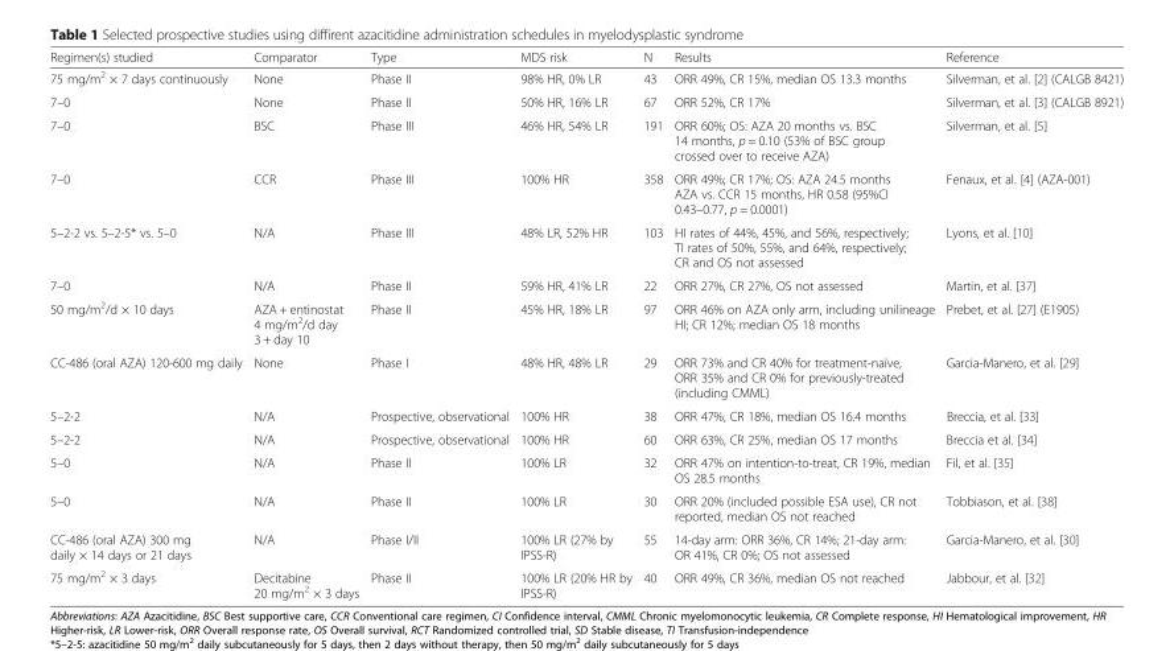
<table><thead><tr><td>Regimen(s) studied</td><td>Comparator</td><td>Type</td><td>MDS risk</td><td>N</td><td>Results</td><td>Reference</td></tr></thead><tbody><tr><td>75 mg/m<sup>2</sup> × 7 days continuously</td><td>None</td><td>Phase II</td><td>98% HR, 0% LR</td><td>43</td><td>ORR 49%, CR 15%, median OS 13.3 months</td><td>Silverman, et al. [2] (CALGB 8421)</td></tr><tr><td>7–0</td><td>None</td><td>Phase II</td><td>50% HR, 16% LR</td><td>67</td><td>ORR 52%, CR 17%</td><td>Silverman, et al. [3] (CALGB 8921)</td></tr><tr><td>7–0</td><td>BSC</td><td>Phase III</td><td>46% HR, 54% LR</td><td>191</td><td>ORR 60%; OS: AZA 20 months vs. BSC 14 months, p = 0.10 (53% of BSC group crossed over to receive AZA)</td><td>Silverman, et al. [5]</td></tr><tr><td>7–0</td><td>CCR</td><td>Phase III</td><td>100% HR</td><td>358</td><td>ORR 49%; CR 17%; OS: AZA 24.5 months AZA vs. CCR 15 months, HR 0.58 (95%CI 0.43–0.77, p = 0.0001)</td><td>Fenaux, et al. [4] (AZA-001)</td></tr><tr><td>5–2-2 vs. 5–2-5* vs. 5–0</td><td>N/A</td><td>Phase III</td><td>48% LR, 52% HR</td><td>103</td><td>HI rates of 44%, 45%, and 56%, respectively; TI rates of 50%, 55%, and 64%, respectively; CR and OS not assessed</td><td>Lyons, et al. [10]</td></tr><tr><td>7–0</td><td>N/A</td><td>Phase II</td><td>59% HR, 41% LR</td><td>22</td><td>ORR 27%, CR 27%, OS not assessed</td><td>Martin, et al. [37]</td></tr><tr><td>50 mg/m<sup>2</sup>/d × 10 days</td><td>AZA + entinostat 4 mg/m<sup>2</sup>/d day 3 + day 10</td><td>Phase II</td><td>45% HR, 18% LR</td><td>97</td><td>ORR 46% on AZA only arm, including unilineage HI; CR 12%; median OS 18 months</td><td>Prebet, et al. [27] (E1905)</td></tr><tr><td>CC-486 (oral AZA) 120-600 mg daily</td><td>None</td><td>Phase I</td><td>48% HR, 48% LR</td><td>29</td><td>ORR 73% and CR 40% for treatment-naïve, ORR 35% and CR 0% for previously-treated (including CMML)</td><td>Garcia-Manero, et al. [29]</td></tr><tr><td>5–2-2</td><td>N/A</td><td>Prospective, observational</td><td>100% HR</td><td>38</td><td>ORR 47%, CR 18%, median OS 16.4 months</td><td>Breccia, et al. [33]</td></tr><tr><td>5–2-2</td><td>N/A</td><td>Prospective, observational</td><td>100% HR</td><td>60</td><td>ORR 63%, CR 25%, median OS 17 months</td><td>Breccia et al. [34]</td></tr><tr><td>5–0</td><td>N/A</td><td>Phase II</td><td>100% LR</td><td>32</td><td>ORR 47% on intention-to-treat, CR 19%, median OS 28.5 months</td><td>Fil, et al. [35]</td></tr><tr><td>5–0</td><td>N/A</td><td>Phase II</td><td>100% LR</td><td>30</td><td>ORR 20% (included possible ESA use), CR not reported, median OS not reached</td><td>Tobbiason, et al. [38]</td></tr><tr><td>CC-486 (oral AZA) 300 mg daily × 14 days or 21 days</td><td>N/A</td><td>Phase I/II</td><td>100% LR (27% by IPSS-R)</td><td>55</td><td>14-day arm: ORR 36%, CR 14%; 21-day arm: OR 41%, CR 0%; OS not assessed</td><td>Garcia-Manero, et al. [30]</td></tr><tr><td>75 mg/m<sup>2</sup> × 3 days</td><td>Decitabine 20 mg/m<sup>2</sup> × 3 days</td><td>Phase II</td><td>100% LR (20% HR by IPSS-R)</td><td>40</td><td>ORR 49%, CR 36%, median OS not reached</td><td>Jabbour, et al. [32]</td></tr></tbody></table>